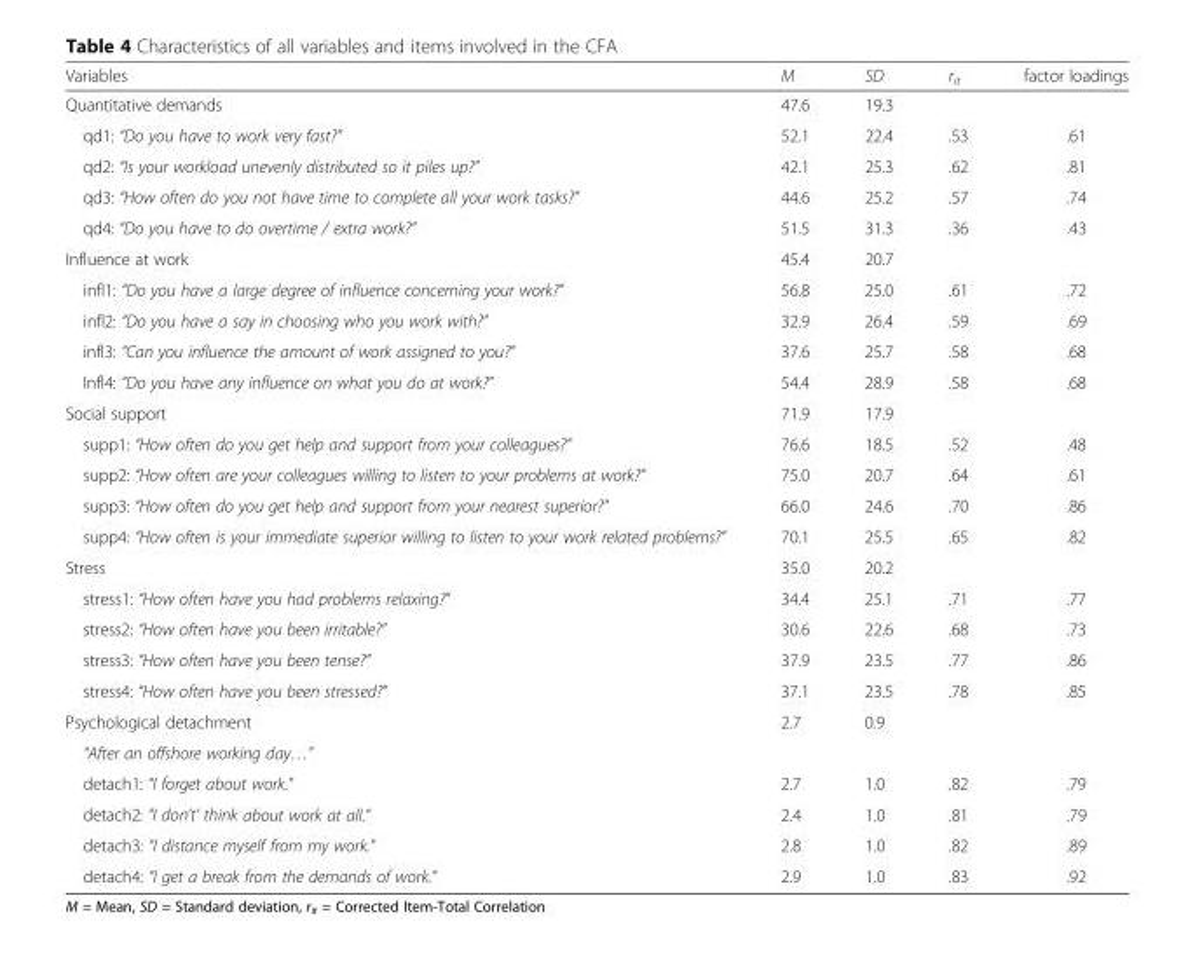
<table><thead><tr><td>Variables</td><td>M</td><td>SD</td><td>r<sub>it</sub></td><td>factor loadings</td></tr></thead><tbody><tr><td>Quantitative demands</td><td>47.6</td><td>19.3</td><td></td><td></td></tr><tr><td>qd1: “Do you have to work very fast?”</td><td>52.1</td><td>22.4</td><td>.53</td><td>.61</td></tr><tr><td>qd2: “Is your workload unevenly distributed so it piles up?”</td><td>42.1</td><td>25.3</td><td>.62</td><td>.81</td></tr><tr><td>qd3: “How often do you not have time to complete all your work tasks?”</td><td>44.6</td><td>25.2</td><td>.57</td><td>.74</td></tr><tr><td>qd4: “Do you have to do overtime / extra work?”</td><td>51.5</td><td>31.3</td><td>.36</td><td>.43</td></tr><tr><td>Influence at work</td><td>45.4</td><td>20.7</td><td></td><td></td></tr><tr><td>infl1: “Do you have a large degree of influence concerning your work?”</td><td>56.8</td><td>25.0</td><td>.61</td><td>.72</td></tr><tr><td>infl2: “Do you have a say in choosing who you work with?”</td><td>32.9</td><td>26.4</td><td>.59</td><td>.69</td></tr><tr><td>infl3: “Can you influence the amount of work assigned to you?”</td><td>37.6</td><td>25.7</td><td>.58</td><td>.68</td></tr><tr><td>Infl4: “Do you have any influence on what you do at work?”</td><td>54.4</td><td>28.9</td><td>.58</td><td>.68</td></tr><tr><td>Social support</td><td>71.9</td><td>17.9</td><td></td><td></td></tr><tr><td>supp1: “How often do you get help and support from your colleagues?”</td><td>76.6</td><td>18.5</td><td>.52</td><td>.48</td></tr><tr><td>supp2: “How often are your colleagues willing to listen to your problems at work?”</td><td>75.0</td><td>20.7</td><td>.64</td><td>.61</td></tr><tr><td>supp3: “How often do you get help and support from your nearest superior?”</td><td>66.0</td><td>24.6</td><td>.70</td><td>.86</td></tr><tr><td>supp4: “How often is your immediate superior willing to listen to your work related problems?”</td><td>70.1</td><td>25.5</td><td>.65</td><td>.82</td></tr><tr><td>Stress</td><td>35.0</td><td>20.2</td><td></td><td></td></tr><tr><td>stress1: “How often have you had problems relaxing?”</td><td>34.4</td><td>25.1</td><td>.71</td><td>.77</td></tr><tr><td>stress2: “How often have you been irritable?”</td><td>30.6</td><td>22.6</td><td>.68</td><td>.73</td></tr><tr><td>stress3: “How often have you been tense?”</td><td>37.9</td><td>23.5</td><td>.77</td><td>.86</td></tr><tr><td>stress4: “How often have you been stressed?”</td><td>37.1</td><td>23.5</td><td>.78</td><td>.85</td></tr><tr><td>Psychological detachment</td><td>2.7</td><td>0.9</td><td></td><td></td></tr><tr><td colspan="5">“After an offshore working day…”</td></tr><tr><td>detach1: “I forget about work.”</td><td>2.7</td><td>1.0</td><td>.82</td><td>.79</td></tr><tr><td>detach2: “I don’t’ think about work at all.”</td><td>2.4</td><td>1.0</td><td>.81</td><td>.79</td></tr><tr><td>detach3: “I distance myself from my work.”</td><td>2.8</td><td>1.0</td><td>.82</td><td>.89</td></tr><tr><td>detach4: “I get a break from the demands of work.”</td><td>2.9</td><td>1.0</td><td>.83</td><td>.92</td></tr></tbody></table>